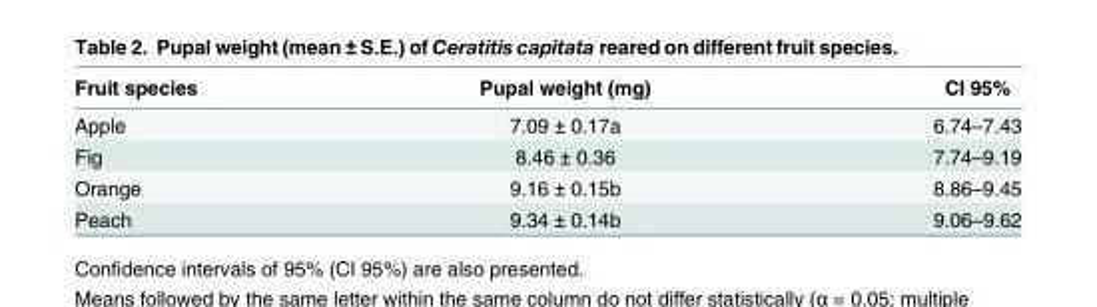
<table><thead><tr><td>Fruit species</td><td>Pupal weight (mg)</td><td>CI 95%</td></tr></thead><tbody><tr><td>Apple</td><td>7.09 ± 0.17a</td><td>6.74–7.43</td></tr><tr><td>Fig</td><td>8.46 ± 0.36</td><td>7.74–9.19</td></tr><tr><td>Orange</td><td>9.16 ± 0.15b</td><td>8.86–9.45</td></tr><tr><td>Peach</td><td>9.34 ± 0.14b</td><td>9.06–9.62</td></tr></tbody></table>